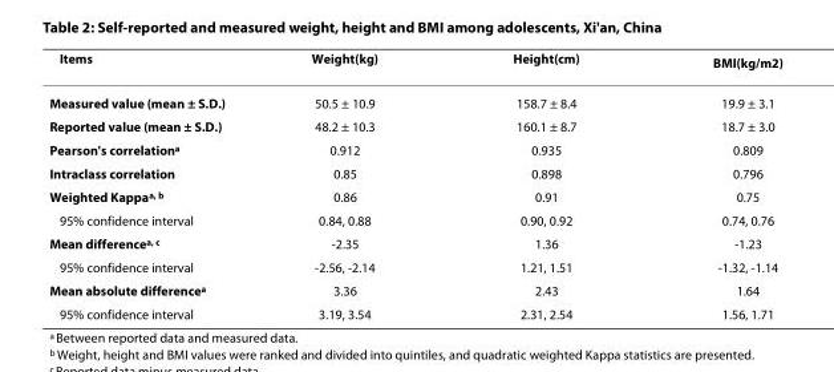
<table><thead><tr><td>Items</td><td>Weight(kg)</td><td>Height(cm)</td><td>BMI(kg/m<sup>2</sup>)</td></tr></thead><tbody><tr><td>Measured value (mean ± S.D.)</td><td>50.5 ± 10.9</td><td>158.7 ± 8.4</td><td>19.9 ± 3.1</td></tr><tr><td>Reported value (mean ± S.D.)</td><td>48.2 ± 10.3</td><td>160.1 ± 8.7</td><td>18.7 ± 3.0</td></tr><tr><td>Pearson&#x27;s correlation<sup>a</sup></td><td>0.912</td><td>0.935</td><td>0.809</td></tr><tr><td>Intraclass correlation</td><td>0.85</td><td>0.898</td><td>0.796</td></tr><tr><td>Weighted Kappa<sup>a, b</sup></td><td>0.86</td><td>0.91</td><td>0.75</td></tr><tr><td>95% confidence interval</td><td>0.84, 0.88</td><td>0.90, 0.92</td><td>0.74, 0.76</td></tr><tr><td>Mean difference<sup>a, c</sup></td><td>-2.35</td><td>1.36</td><td>-1.23</td></tr><tr><td>95% confidence interval</td><td>-2.56, -2.14</td><td>1.21, 1.51</td><td>-1.32, -1.14</td></tr><tr><td>Mean absolute difference<sup>a</sup></td><td>3.36</td><td>2.43</td><td>1.64</td></tr><tr><td>95% confidence interval</td><td>3.19, 3.54</td><td>2.31, 2.54</td><td>1.56, 1.71</td></tr></tbody></table>